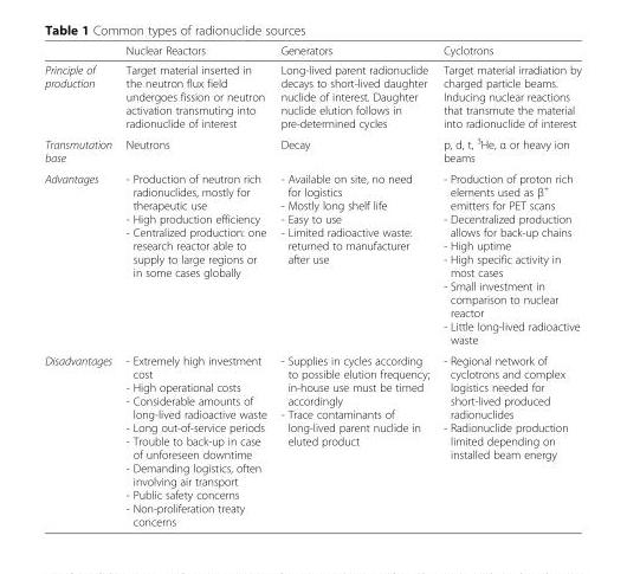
<table><thead><tr><td></td><td>Nuclear Reactors</td><td>Generators</td><td>Cyclotrons</td></tr></thead><tbody><tr><td>Principle of production</td><td>Target material inserted in the neutron flux field undergoes fission or neutron activation transmuting into radionuclide of interest</td><td>Long-lived parent radionuclide decays to short-lived daughter nuclide of interest. Daughter nuclide elution follows in pre-determined cycles</td><td>Target material irradiation by charged particle beams. Inducing nuclear reactions that transmute the material into radionuclide of interest</td></tr><tr><td>Transmutation base</td><td>Neutrons</td><td>Decay</td><td>p, d, t, <sup>3</sup>He, α or heavy ion beams</td></tr><tr><td>Advantages</td><td>- Production of neutron rich radionuclides, mostly for therapeutic use - High production efficiency - Centralized production: one research reactor able to supply to large regions or in some cases globally</td><td>- Available on site, no need for logistics - Mostly long shelf life - Easy to use - Limited radioactive waste: returned to manufacturer after use</td><td>- Production of proton rich elements used as β<sup>+</sup> emitters for PET scans - Decentralized production allows for back-up chains - High uptime - High specific activity in most cases - Small investment in comparison to nuclear reactor - Little long-lived radioactive waste</td></tr><tr><td>Disadvantages</td><td>- Extremely high investment cost - High operational costs - Considerable amounts of long-lived radioactive waste - Long out-of-service periods - Trouble to back-up in case of unforeseen downtime - Demanding logistics, often involving air transport - Public safety concerns - Non-proliferation treaty concerns</td><td>- Supplies in cycles according to possible elution frequency; in-house use must be timed accordingly - Trace contaminants of long-lived parent nuclide in eluted product</td><td>- Regional network of cyclotrons and complex logistics needed for short-lived produced radionuclides - Radionuclide production limited depending on installed beam energy</td></tr></tbody></table>